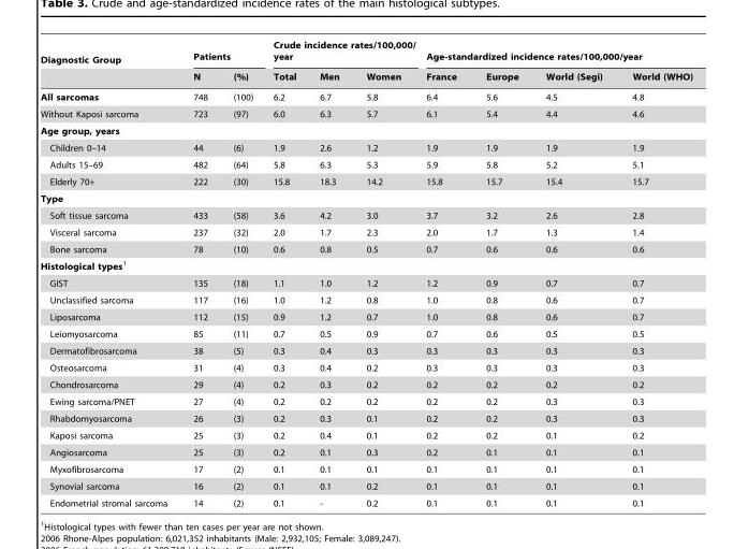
<table><thead><tr><td rowspan="2">Diagnostic Group</td><td colspan="2">Patients</td><td colspan="3">Crude incidence rates/100,000/ year</td><td colspan="4">Age-standardized incidence rates/100,000/year</td></tr><tr><td>N</td><td>(%)</td><td>Total</td><td>Men</td><td>Women</td><td>France</td><td>Europe</td><td>World (Segi)</td><td>World (WHO)</td></tr></thead><tbody><tr><td>All sarcomas</td><td>748</td><td>(100)</td><td>6.2</td><td>6.7</td><td>5.8</td><td>6.4</td><td>5.6</td><td>4.5</td><td>4.8</td></tr><tr><td>Without Kaposi sarcoma</td><td>723</td><td>(97)</td><td>6.0</td><td>6.3</td><td>5.7</td><td>6.1</td><td>5.4</td><td>4.4</td><td>4.6</td></tr><tr><td colspan="10">Age group, years</td></tr><tr><td>Children 0–14</td><td>44</td><td>(6)</td><td>1.9</td><td>2.6</td><td>1.2</td><td>1.9</td><td>1.9</td><td>1.9</td><td>1.9</td></tr><tr><td>Adults 15–69</td><td>482</td><td>(64)</td><td>5.8</td><td>6.3</td><td>5.3</td><td>5.9</td><td>5.8</td><td>5.2</td><td>5.1</td></tr><tr><td>Elderly 70+</td><td>222</td><td>(30)</td><td>15.8</td><td>18.3</td><td>14.2</td><td>15.8</td><td>15.7</td><td>15.4</td><td>15.7</td></tr><tr><td colspan="10">Type</td></tr><tr><td>Soft tissue sarcoma</td><td>433</td><td>(58)</td><td>3.6</td><td>4.2</td><td>3.0</td><td>3.7</td><td>3.2</td><td>2.6</td><td>2.8</td></tr><tr><td>Visceral sarcoma</td><td>237</td><td>(32)</td><td>2.0</td><td>1.7</td><td>2.3</td><td>2.0</td><td>1.7</td><td>1.3</td><td>1.4</td></tr><tr><td>Bone sarcoma</td><td>78</td><td>(10)</td><td>0.6</td><td>0.8</td><td>0.5</td><td>0.7</td><td>0.6</td><td>0.6</td><td>0.6</td></tr><tr><td colspan="10">Histological types1</td></tr><tr><td>GIST</td><td>135</td><td>(18)</td><td>1.1</td><td>1.0</td><td>1.2</td><td>1.2</td><td>0.9</td><td>0.7</td><td>0.7</td></tr><tr><td>Unclassified sarcoma</td><td>117</td><td>(16)</td><td>1.0</td><td>1.2</td><td>0.8</td><td>1.0</td><td>0.8</td><td>0.6</td><td>0.7</td></tr><tr><td>Liposarcoma</td><td>112</td><td>(15)</td><td>0.9</td><td>1.2</td><td>0.7</td><td>1.0</td><td>0.8</td><td>0.6</td><td>0.7</td></tr><tr><td>Leiomyosarcoma</td><td>85</td><td>(11)</td><td>0.7</td><td>0.5</td><td>0.9</td><td>0.7</td><td>0.6</td><td>0.5</td><td>0.5</td></tr><tr><td>Dermatofibrosarcoma</td><td>38</td><td>(5)</td><td>0.3</td><td>0.4</td><td>0.3</td><td>0.3</td><td>0.3</td><td>0.3</td><td>0.3</td></tr><tr><td>Osteosarcoma</td><td>31</td><td>(4)</td><td>0.3</td><td>0.4</td><td>0.2</td><td>0.3</td><td>0.3</td><td>0.3</td><td>0.3</td></tr><tr><td>Chondrosarcoma</td><td>29</td><td>(4)</td><td>0.2</td><td>0.3</td><td>0.2</td><td>0.2</td><td>0.2</td><td>0.2</td><td>0.2</td></tr><tr><td>Ewing sarcoma/PNET</td><td>27</td><td>(4)</td><td>0.2</td><td>0.2</td><td>0.2</td><td>0.2</td><td>0.2</td><td>0.3</td><td>0.3</td></tr><tr><td>Rhabdomyosarcoma</td><td>26</td><td>(3)</td><td>0.2</td><td>0.3</td><td>0.1</td><td>0.2</td><td>0.2</td><td>0.3</td><td>0.3</td></tr><tr><td>Kaposi sarcoma</td><td>25</td><td>(3)</td><td>0.2</td><td>0.4</td><td>0.1</td><td>0.2</td><td>0.2</td><td>0.1</td><td>0.2</td></tr><tr><td>Angiosarcoma</td><td>25</td><td>(3)</td><td>0.2</td><td>0.1</td><td>0.3</td><td>0.2</td><td>0.1</td><td>0.1</td><td>0.1</td></tr><tr><td>Myxofibrosarcoma</td><td>17</td><td>(2)</td><td>0.1</td><td>0.1</td><td>0.1</td><td>0.1</td><td>0.1</td><td>0.1</td><td>0.1</td></tr><tr><td>Synovial sarcoma</td><td>16</td><td>(2)</td><td>0.1</td><td>0.1</td><td>0.2</td><td>0.1</td><td>0.1</td><td>0.1</td><td>0.1</td></tr><tr><td>Endometrial stromal sarcoma</td><td>14</td><td>(2)</td><td>0.1</td><td>-</td><td>0.2</td><td>0.1</td><td>0.1</td><td>0.1</td><td>0.1</td></tr></tbody></table>